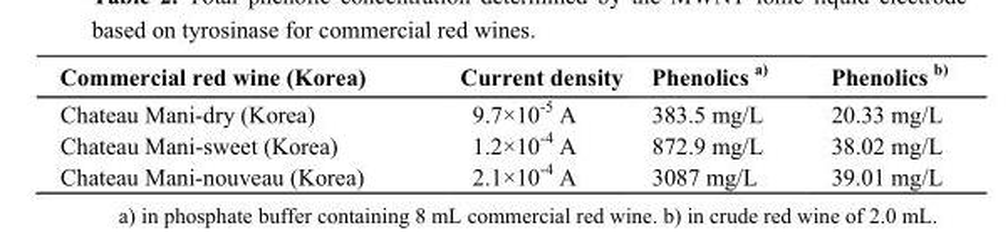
<table><thead><tr><td>Commercial red wine (Korea)</td><td>Current density</td><td>Phenolics <sup>a)</sup></td><td>Phenolics <sup>b)</sup></td></tr></thead><tbody><tr><td>Chateau Mani-dry (Korea)</td><td>9.7×10<sup>-5</sup> A</td><td>383.5 mg/L</td><td>20.33 mg/L</td></tr><tr><td>Chateau Mani-sweet (Korea)</td><td>1.2×10<sup>-4</sup> A</td><td>872.9 mg/L</td><td>38.02 mg/L</td></tr><tr><td>Chateau Mani-nouveau (Korea)</td><td>2.1×10<sup>-4</sup> A</td><td>3087 mg/L</td><td>39.01 mg/L</td></tr></tbody></table>